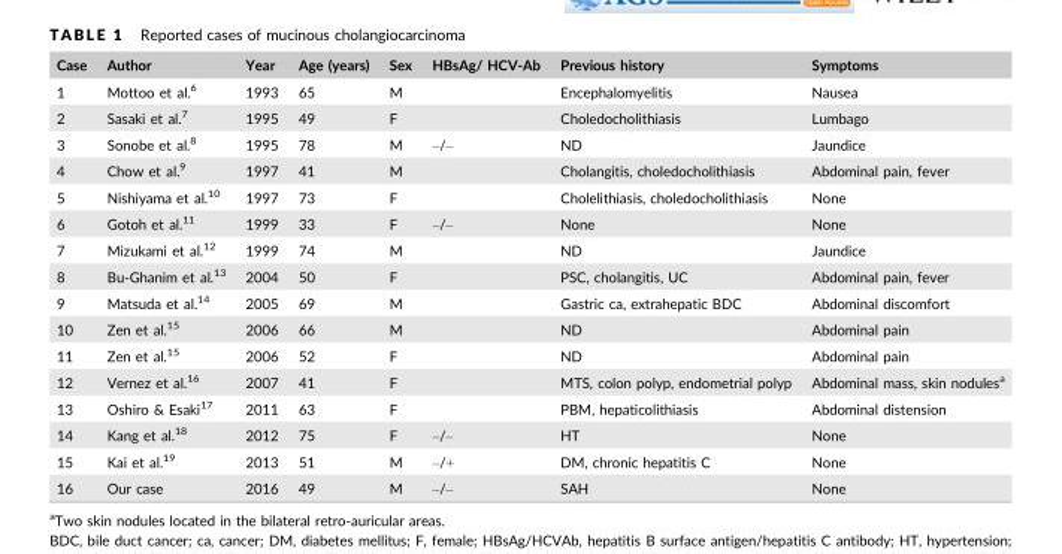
<table><thead><tr><td>Case</td><td>Author</td><td>Year</td><td>Age (years)</td><td>Sex</td><td>HBsAg/ HCV-Ab</td><td>Previous history</td><td>Symptoms</td></tr></thead><tbody><tr><td>1</td><td>Mottoo et al.<sup>6</sup></td><td>1993</td><td>65</td><td>M</td><td></td><td>Encephalomyelitis</td><td>Nausea</td></tr><tr><td>2</td><td>Sasaki et al.<sup>7</sup></td><td>1995</td><td>49</td><td>F</td><td></td><td>Choledocholithiasis</td><td>Lumbago</td></tr><tr><td>3</td><td>Sonobe et al.<sup>8</sup></td><td>1995</td><td>78</td><td>M</td><td>–/–</td><td>ND</td><td>Jaundice</td></tr><tr><td>4</td><td>Chow et al.<sup>9</sup></td><td>1997</td><td>41</td><td>M</td><td></td><td>Cholangitis, choledocholithiasis</td><td>Abdominal pain, fever</td></tr><tr><td>5</td><td>Nishiyama et al.<sup>10</sup></td><td>1997</td><td>73</td><td>F</td><td></td><td>Cholelithiasis, choledocholithiasis</td><td>None</td></tr><tr><td>6</td><td>Gotoh et al.<sup>11</sup></td><td>1999</td><td>33</td><td>F</td><td>–/–</td><td>None</td><td>None</td></tr><tr><td>7</td><td>Mizukami et al.<sup>12</sup></td><td>1999</td><td>74</td><td>M</td><td></td><td>ND</td><td>Jaundice</td></tr><tr><td>8</td><td>Bu-Ghanim et al.<sup>13</sup></td><td>2004</td><td>50</td><td>F</td><td></td><td>PSC, cholangitis, UC</td><td>Abdominal pain, fever</td></tr><tr><td>9</td><td>Matsuda et al.<sup>14</sup></td><td>2005</td><td>69</td><td>M</td><td></td><td>Gastric ca, extrahepatic BDC</td><td>Abdominal discomfort</td></tr><tr><td>10</td><td>Zen et al.<sup>15</sup></td><td>2006</td><td>66</td><td>M</td><td></td><td>ND</td><td>Abdominal pain</td></tr><tr><td>11</td><td>Zen et al.<sup>15</sup></td><td>2006</td><td>52</td><td>F</td><td></td><td>ND</td><td>Abdominal pain</td></tr><tr><td>12</td><td>Vernez et al.<sup>16</sup></td><td>2007</td><td>41</td><td>F</td><td></td><td>MTS, colon polyp, endometrial polyp</td><td>Abdominal mass, skin nodules<sup>a</sup></td></tr><tr><td>13</td><td>Oshiro &amp; Esaki<sup>17</sup></td><td>2011</td><td>63</td><td>F</td><td></td><td>PBM, hepaticolithiasis</td><td>Abdominal distension</td></tr><tr><td>14</td><td>Kang et al.<sup>18</sup></td><td>2012</td><td>75</td><td>F</td><td>–/–</td><td>HT</td><td>None</td></tr><tr><td>15</td><td>Kai et al.<sup>19</sup></td><td>2013</td><td>51</td><td>M</td><td>–/+</td><td>DM, chronic hepatitis C</td><td>None</td></tr><tr><td>16</td><td>Our case</td><td>2016</td><td>49</td><td>M</td><td>–/–</td><td>SAH</td><td>None</td></tr></tbody></table>